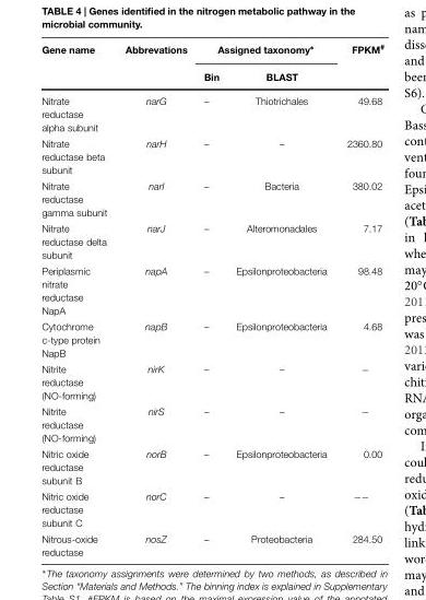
<table><thead><tr><td rowspan="2">Gene name</td><td rowspan="2">Abbrevations</td><td colspan="2">Assigned taxonomy∗</td><td rowspan="2">FPKM#</td></tr><tr><td>Bin</td><td>BLAST</td></tr></thead><tbody><tr><td>Nitrate reductase alpha subunit</td><td>narG</td><td>–</td><td>Thiotrichales</td><td>49.68</td></tr><tr><td>Nitrate reductase beta subunit</td><td>narH</td><td>–</td><td>–</td><td>2360.80</td></tr><tr><td>Nitrate reductase gamma subunit</td><td>narI</td><td>–</td><td>Bacteria</td><td>380.02</td></tr><tr><td>Nitrate reductase delta subunit</td><td>narJ</td><td>–</td><td>Alteromonadales</td><td>7.17</td></tr><tr><td>Periplasmic nitrate reductase NapA</td><td>napA</td><td>–</td><td>Epsilonproteobacteria</td><td>98.48</td></tr><tr><td>Cytochrome c-type protein NapB</td><td>napB</td><td>–</td><td>Epsilonproteobacteria</td><td>4.68</td></tr><tr><td>Nitrite reductase (NO-forming)</td><td>nirK</td><td>–</td><td>–</td><td>−</td></tr><tr><td>Nitrite reductase (NO-forming)</td><td>nirS</td><td>–</td><td>–</td><td>−</td></tr><tr><td>Nitric oxide reductase subunit B</td><td>norB</td><td>–</td><td>Epsilonproteobacteria</td><td>0.00</td></tr><tr><td>Nitric oxide reductase subunit C</td><td>norC</td><td>–</td><td>–</td><td>−−</td></tr><tr><td>Nitrous-oxide reductase</td><td>nosZ</td><td>–</td><td>Proteobacteria</td><td>284.50</td></tr></tbody></table>